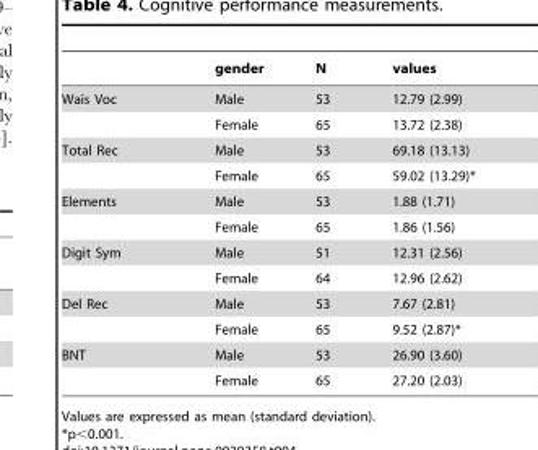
<table><thead><tr><td></td><td>gender</td><td>N</td><td>values</td></tr></thead><tbody><tr><td rowspan="2">Wais Voc</td><td>Male</td><td>53</td><td>12.79 (2.99)</td></tr><tr><td>Female</td><td>65</td><td>13.72 (2.38)</td></tr><tr><td rowspan="2">Total Rec</td><td>Male</td><td>53</td><td>69.18 (13.13)</td></tr><tr><td>Female</td><td>65</td><td>59.02 (13.29)*</td></tr><tr><td rowspan="2">Elements</td><td>Male</td><td>53</td><td>1.88 (1.71)</td></tr><tr><td>Female</td><td>65</td><td>1.86 (1.56)</td></tr><tr><td rowspan="2">Digit Sym</td><td>Male</td><td>51</td><td>12.31 (2.56)</td></tr><tr><td>Female</td><td>64</td><td>12.96 (2.62)</td></tr><tr><td rowspan="2">Del Rec</td><td>Male</td><td>53</td><td>7.67 (2.81)</td></tr><tr><td>Female</td><td>65</td><td>9.52 (2.87)*</td></tr><tr><td rowspan="2">BNT</td><td>Male</td><td>53</td><td>26.90 (3.60)</td></tr><tr><td>Female</td><td>65</td><td>27.20 (2.03)</td></tr></tbody></table>